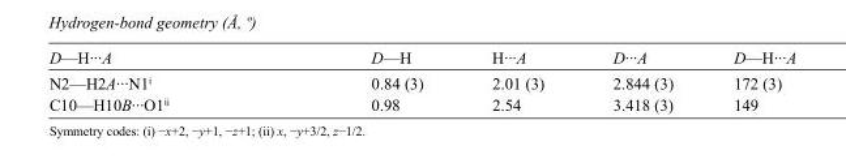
<table><tbody><tr><td>D—H···A</td><td>D—H</td><td>H···A</td><td>D···A</td><td>D—H···A</td></tr><tr><td>N2—H2A···N1<sup>i</sup></td><td>0.84 (3)</td><td>2.01 (3)</td><td>2.844 (3)</td><td>172 (3)</td></tr><tr><td>C10—H10B···O1<sup>ii</sup></td><td>0.98</td><td>2.54</td><td>3.418 (3)</td><td>149</td></tr></tbody></table>